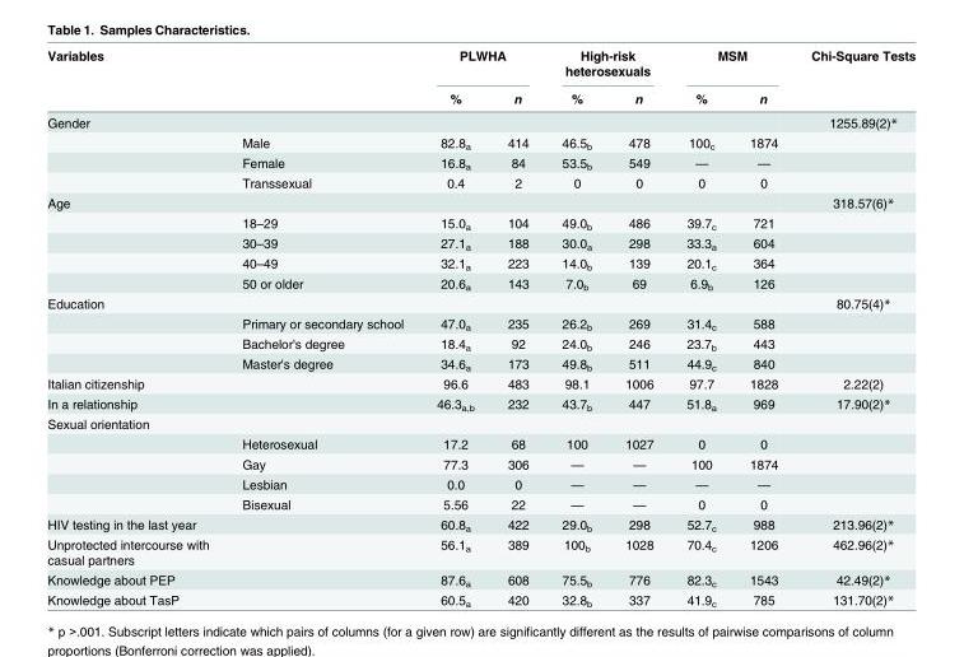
<table><thead><tr><td colspan="2">Variables</td><td colspan="2">PLWHA</td><td colspan="2">High-risk heterosexuals</td><td colspan="2">MSM</td><td rowspan="2">Chi-Square Tests</td></tr><tr><td></td><td></td><td>%</td><td>n</td><td>%</td><td>n</td><td>%</td><td>n</td></tr></thead><tbody><tr><td rowspan="4">Gender</td><td></td><td></td><td></td><td></td><td></td><td></td><td></td><td>1255.89(2)*</td></tr><tr><td>Male</td><td>82.8<sub>a</sub></td><td>414</td><td>46.5<sub>b</sub></td><td>478</td><td>100<sub>c</sub></td><td>1874</td><td></td></tr><tr><td>Female</td><td>16.8<sub>a</sub></td><td>84</td><td>53.5<sub>b</sub></td><td>549</td><td>—</td><td>—</td><td></td></tr><tr><td>Transsexual</td><td>0.4</td><td>2</td><td>0</td><td>0</td><td>0</td><td>0</td><td></td></tr><tr><td rowspan="5">Age</td><td></td><td></td><td></td><td></td><td></td><td></td><td></td><td>318.57(6)*</td></tr><tr><td>18–29</td><td>15.0<sub>a</sub></td><td>104</td><td>49.0<sub>b</sub></td><td>486</td><td>39.7<sub>c</sub></td><td>721</td><td></td></tr><tr><td>30–39</td><td>27.1<sub>a</sub></td><td>188</td><td>30.0<sub>a</sub></td><td>298</td><td>33.3<sub>a</sub></td><td>604</td><td></td></tr><tr><td>40–49</td><td>32.1<sub>a</sub></td><td>223</td><td>14.0<sub>b</sub></td><td>139</td><td>20.1<sub>c</sub></td><td>364</td><td></td></tr><tr><td>50 or older</td><td>20.6<sub>a</sub></td><td>143</td><td>7.0<sub>b</sub></td><td>69</td><td>6.9<sub>b</sub></td><td>126</td><td></td></tr><tr><td rowspan="4">Education</td><td></td><td></td><td></td><td></td><td></td><td></td><td></td><td>80.75(4)*</td></tr><tr><td>Primary or secondary school</td><td>47.0<sub>a</sub></td><td>235</td><td>26.2<sub>b</sub></td><td>269</td><td>31.4<sub>c</sub></td><td>588</td><td></td></tr><tr><td>Bachelor&#x27;s degree</td><td>18.4<sub>a</sub></td><td>92</td><td>24.0<sub>b</sub></td><td>246</td><td>23.7<sub>b</sub></td><td>443</td><td></td></tr><tr><td>Master&#x27;s degree</td><td>34.6<sub>a</sub></td><td>173</td><td>49.8<sub>b</sub></td><td>511</td><td>44.9<sub>c</sub></td><td>840</td><td></td></tr><tr><td>Italian citizenship</td><td></td><td>96.6</td><td>483</td><td>98.1</td><td>1006</td><td>97.7</td><td>1828</td><td>2.22(2)</td></tr><tr><td>In a relationship</td><td></td><td>46.3<sub>a,b</sub></td><td>232</td><td>43.7<sub>b</sub></td><td>447</td><td>51.8<sub>a</sub></td><td>969</td><td>17.90(2)*</td></tr><tr><td colspan="9">Sexual orientation</td></tr><tr><td></td><td>Heterosexual</td><td>17.2</td><td>68</td><td>100</td><td>1027</td><td>0</td><td>0</td><td></td></tr><tr><td></td><td>Gay</td><td>77.3</td><td>306</td><td>—</td><td>—</td><td>100</td><td>1874</td><td></td></tr><tr><td></td><td>Lesbian</td><td>0.0</td><td>0</td><td>—</td><td>—</td><td>—</td><td>—</td><td></td></tr><tr><td></td><td>Bisexual</td><td>5.56</td><td>22</td><td>—</td><td>—</td><td>0</td><td>0</td><td></td></tr><tr><td>HIV testing in the last year</td><td></td><td>60.8<sub>a</sub></td><td>422</td><td>29.0<sub>b</sub></td><td>298</td><td>52.7<sub>c</sub></td><td>988</td><td>213.96(2)*</td></tr><tr><td>Unprotected intercourse with casual partners</td><td></td><td>56.1<sub>a</sub></td><td>389</td><td>100<sub>b</sub></td><td>1028</td><td>70.4<sub>c</sub></td><td>1206</td><td>462.96(2)*</td></tr><tr><td>Knowledge about PEP</td><td></td><td>87.6<sub>a</sub></td><td>608</td><td>75.5<sub>b</sub></td><td>776</td><td>82.3<sub>c</sub></td><td>1543</td><td>42.49(2)*</td></tr><tr><td>Knowledge about TasP</td><td></td><td>60.5<sub>a</sub></td><td>420</td><td>32.8<sub>b</sub></td><td>337</td><td>41.9<sub>c</sub></td><td>785</td><td>131.70(2)*</td></tr></tbody></table>